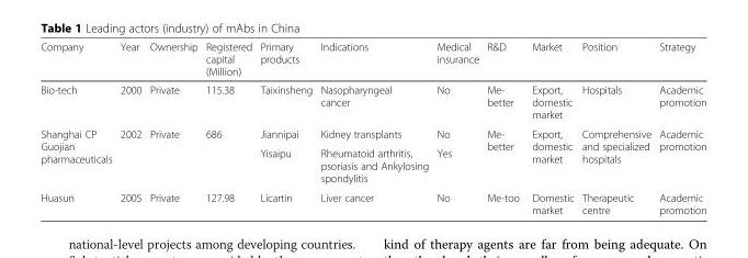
<table><thead><tr><td>Company</td><td>Year</td><td>Ownership</td><td>Registered capital (Million)</td><td>Primary products</td><td>Indications</td><td>Medical insurance</td><td>R&amp;D</td><td>Market</td><td>Position</td><td>Strategy</td></tr></thead><tbody><tr><td>Bio-tech</td><td>2000</td><td>Private</td><td>115.38</td><td>Taixinsheng</td><td>Nasopharyngeal cancer</td><td>No</td><td>Me- better</td><td>Export, domestic market</td><td>Hospitals</td><td>Academic promotion</td></tr><tr><td rowspan="2">Shanghai CP Guojian pharmaceuticals</td><td rowspan="2">2002</td><td rowspan="2">Private</td><td>686</td><td>Jiannipai</td><td>Kidney transplants</td><td>No</td><td rowspan="2">Me- better</td><td rowspan="2">Export, domestic market</td><td rowspan="2">Comprehensive and specialized hospitals</td><td rowspan="2">Academic promotion</td></tr><tr><td></td><td>Yisaipu</td><td>Rheumatoid arthritis, psoriasis and Ankylosing spondylitis</td><td>Yes</td></tr><tr><td>Huasun</td><td>2005</td><td>Private</td><td>127.98</td><td>Licartin</td><td>Liver cancer</td><td>No</td><td>Me-too</td><td>Domestic market</td><td>Therapeutic centre</td><td>Academic promotion</td></tr></tbody></table>